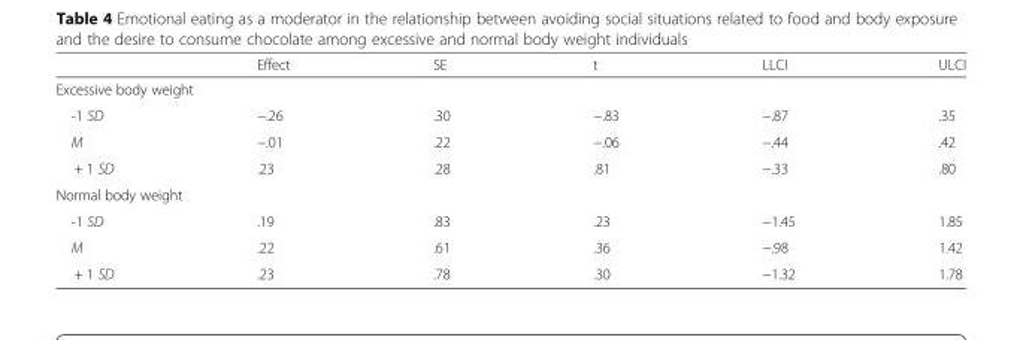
<table><thead><tr><td></td><td>Effect</td><td>SE</td><td>t</td><td>LLCI</td><td>ULCI</td></tr></thead><tbody><tr><td colspan="6">Excessive body weight</td></tr><tr><td>-1 SD</td><td>−.26</td><td>.30</td><td>−.83</td><td>−.87</td><td>.35</td></tr><tr><td>M</td><td>−.01</td><td>.22</td><td>−.06</td><td>−.44</td><td>.42</td></tr><tr><td>+ 1 SD</td><td>.23</td><td>.28</td><td>.81</td><td>−.33</td><td>.80</td></tr><tr><td colspan="6">Normal body weight</td></tr><tr><td>-1 SD</td><td>.19</td><td>.83</td><td>.23</td><td>−1.45</td><td>1.85</td></tr><tr><td>M</td><td>.22</td><td>.61</td><td>.36</td><td>−.98</td><td>1.42</td></tr><tr><td>+ 1 SD</td><td>.23</td><td>.78</td><td>.30</td><td>−1.32</td><td>1.78</td></tr></tbody></table>